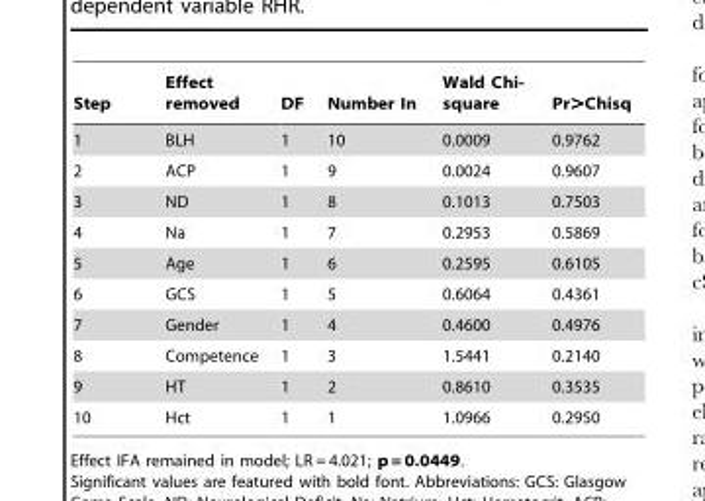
<table><thead><tr><td>Step</td><td>Effect removed</td><td>DF</td><td>Number In</td><td>Wald Chi- square</td><td>Pr&gt;Chisq</td></tr></thead><tbody><tr><td>1</td><td>BLH</td><td>1</td><td>10</td><td>0.0009</td><td>0.9762</td></tr><tr><td>2</td><td>ACP</td><td>1</td><td>9</td><td>0.0024</td><td>0.9607</td></tr><tr><td>3</td><td>ND</td><td>1</td><td>8</td><td>0.1013</td><td>0.7503</td></tr><tr><td>4</td><td>Na</td><td>1</td><td>7</td><td>0.2953</td><td>0.5869</td></tr><tr><td>5</td><td>Age</td><td>1</td><td>6</td><td>0.2595</td><td>0.6105</td></tr><tr><td>6</td><td>GCS</td><td>1</td><td>5</td><td>0.6064</td><td>0.4361</td></tr><tr><td>7</td><td>Gender</td><td>1</td><td>4</td><td>0.4600</td><td>0.4976</td></tr><tr><td>8</td><td>Competence</td><td>1</td><td>3</td><td>1.5441</td><td>0.2140</td></tr><tr><td>9</td><td>HT</td><td>1</td><td>2</td><td>0.8610</td><td>0.3535</td></tr><tr><td>10</td><td>Hct</td><td>1</td><td>1</td><td>1.0966</td><td>0.2950</td></tr></tbody></table>